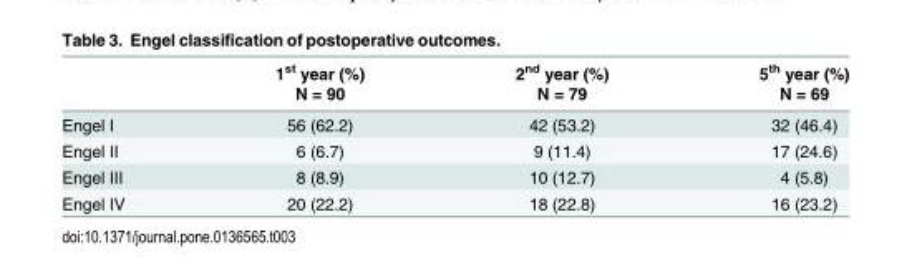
<table><thead><tr><td rowspan="2"></td><td rowspan="2">1<sup>st</sup> year (%) N = 90</td><td rowspan="2">2<sup>nd</sup> year (%) N = 79</td><td rowspan="2">5<sup>th</sup> year (%) N = 69</td></tr><tr></tr></thead><tbody><tr><td>Engel I</td><td>56 (62.2)</td><td>42 (53.2)</td><td>32 (46.4)</td></tr><tr><td>Engel II</td><td>6 (6.7)</td><td>9 (11.4)</td><td>17 (24.6)</td></tr><tr><td>Engel III</td><td>8 (8.9)</td><td>10 (12.7)</td><td>4 (5.8)</td></tr><tr><td>Engel IV</td><td>20 (22.2)</td><td>18 (22.8)</td><td>16 (23.2)</td></tr></tbody></table>